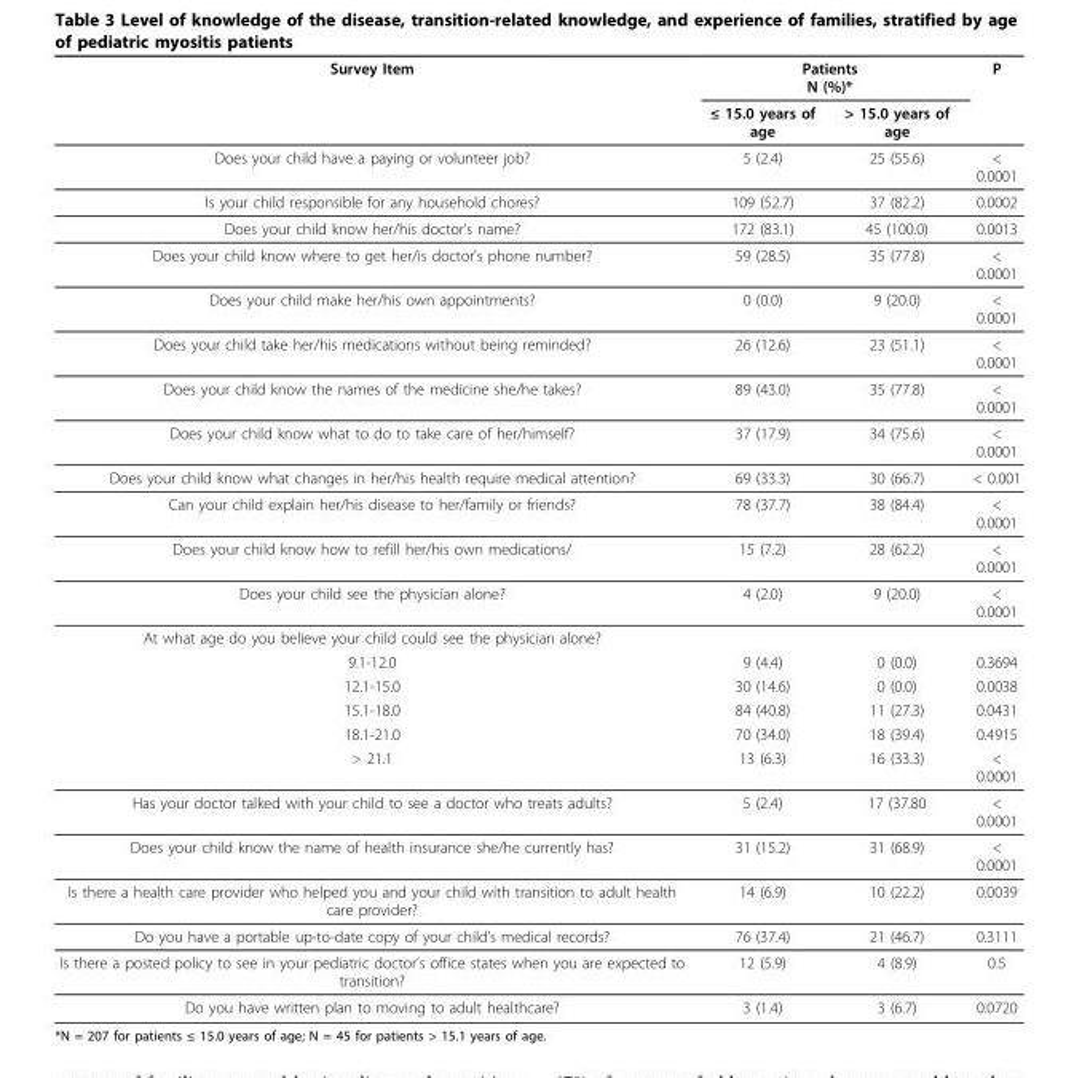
<table><thead><tr><td rowspan="2">Survey Item</td><td colspan="2">Patients N (%)*</td><td rowspan="2">P</td></tr><tr><td>≤ 15.0 years of age</td><td>&gt; 15.0 years of age</td></tr></thead><tbody><tr><td>Does your child have a paying or volunteer job?</td><td>5 (2.4)</td><td>25 (55.6)</td><td>&lt; 0.0001</td></tr><tr><td>Is your child responsible for any household chores?</td><td>109 (52.7)</td><td>37 (82.2)</td><td>0.0002</td></tr><tr><td>Does your child know her/his doctor’s name?</td><td>172 (83.1)</td><td>45 (100.0)</td><td>0.0013</td></tr><tr><td>Does your child know where to get her/is doctor’s phone number?</td><td>59 (28.5)</td><td>35 (77.8)</td><td>&lt; 0.0001</td></tr><tr><td>Does your child make her/his own appointments?</td><td>0 (0.0)</td><td>9 (20.0)</td><td>&lt; 0.0001</td></tr><tr><td>Does your child take her/his medications without being reminded?</td><td>26 (12.6)</td><td>23 (51.1)</td><td>&lt; 0.0001</td></tr><tr><td>Does your child know the names of the medicine she/he takes?</td><td>89 (43.0)</td><td>35 (77.8)</td><td>&lt; 0.0001</td></tr><tr><td>Does your child know what to do to take care of her/himself?</td><td>37 (17.9)</td><td>34 (75.6)</td><td>&lt; 0.0001</td></tr><tr><td>Does your child know what changes in her/his health require medical attention?</td><td>69 (33.3)</td><td>30 (66.7)</td><td>&lt; 0.001</td></tr><tr><td>Can your child explain her/his disease to her/family or friends?</td><td>78 (37.7)</td><td>38 (84.4)</td><td>&lt; 0.0001</td></tr><tr><td>Does your child know how to refill her/his own medications/</td><td>15 (7.2)</td><td>28 (62.2)</td><td>&lt; 0.0001</td></tr><tr><td>Does your child see the physician alone?</td><td>4 (2.0)</td><td>9 (20.0)</td><td>&lt; 0.0001</td></tr><tr><td colspan="4">At what age do you believe your child could see the physician alone?</td></tr><tr><td>9.1-12.0</td><td>9 (4.4)</td><td>0 (0.0)</td><td>0.3694</td></tr><tr><td>12.1-15.0</td><td>30 (14.6)</td><td>0 (0.0)</td><td>0.0038</td></tr><tr><td>15.1-18.0</td><td>84 (40.8)</td><td>11 (27.3)</td><td>0.0431</td></tr><tr><td>18.1-21.0</td><td>70 (34.0)</td><td>18 (39.4)</td><td>0.4915</td></tr><tr><td>&gt; 21.1</td><td>13 (6.3)</td><td>16 (33.3)</td><td>&lt; 0.0001</td></tr><tr><td>Has your doctor talked with your child to see a doctor who treats adults?</td><td>5 (2.4)</td><td>17 (37.80</td><td>&lt; 0.0001</td></tr><tr><td>Does your child know the name of health insurance she/he currently has?</td><td>31 (15.2)</td><td>31 (68.9)</td><td>&lt; 0.0001</td></tr><tr><td>Is there a health care provider who helped you and your child with transition to adult health care provider?</td><td>14 (6.9)</td><td>10 (22.2)</td><td>0.0039</td></tr><tr><td>Do you have a portable up-to-date copy of your child’s medical records?</td><td>76 (37.4)</td><td>21 (46.7)</td><td>0.3111</td></tr><tr><td>Is there a posted policy to see in your pediatric doctor’s office states when you are expected to transition?</td><td>12 (5.9)</td><td>4 (8.9)</td><td>0.5</td></tr><tr><td>Do you have written plan to moving to adult healthcare?</td><td>3 (1.4)</td><td>3 (6.7)</td><td>0.0720</td></tr></tbody></table>